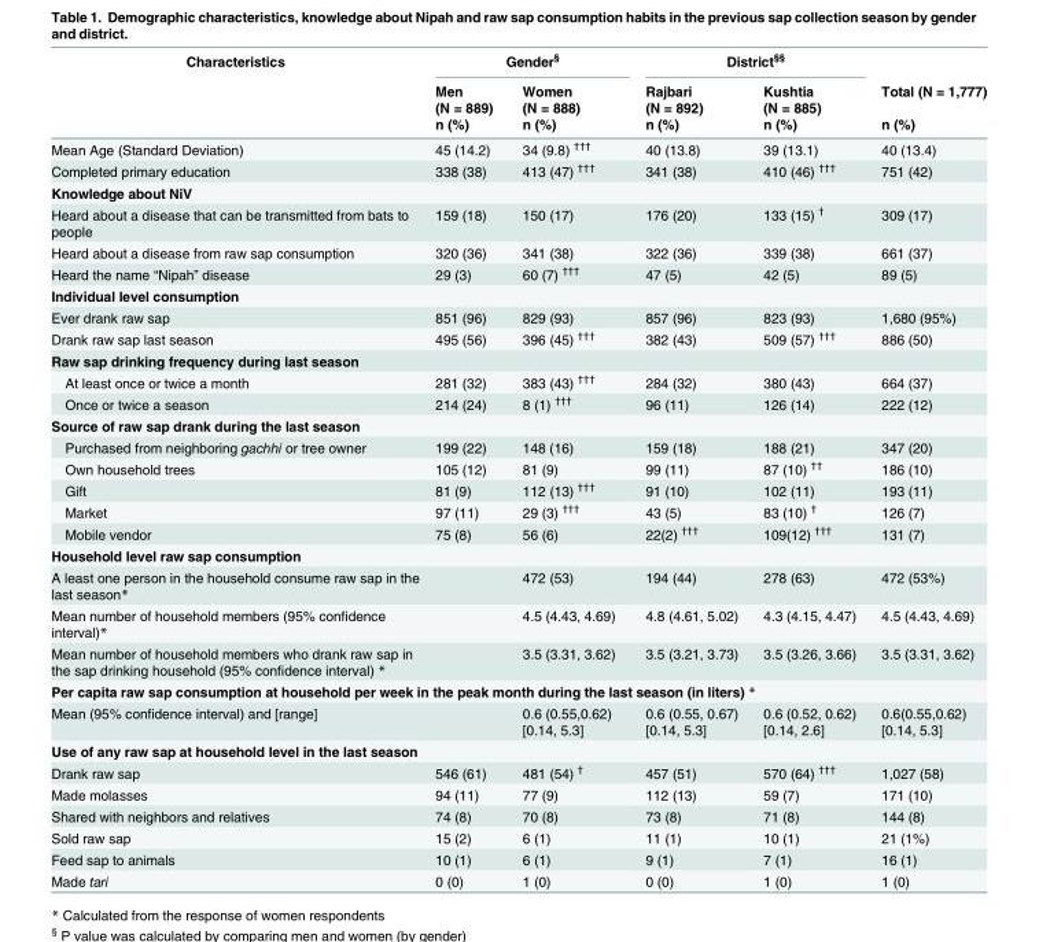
<table><thead><tr><td rowspan="3">Characteristics</td><td colspan="2">Gender<sup>§</sup></td><td colspan="2">District<sup>§§</sup></td><td rowspan="3">Total (N = 1,777) n (%)</td></tr><tr><td rowspan="2">Men (N = 889) n (%)</td><td rowspan="2">Women (N = 888) n (%)</td><td rowspan="2">Rajbari (N = 892) n (%)</td><td rowspan="2">Kushtia (N = 885) n (%)</td></tr><tr></tr></thead><tbody><tr><td>Mean Age (Standard Deviation)</td><td>45 (14.2)</td><td>34 (9.8) <sup>†††</sup></td><td>40 (13.8)</td><td>39 (13.1)</td><td>40 (13.4)</td></tr><tr><td>Completed primary education</td><td>338 (38)</td><td>413 (47) <sup>†††</sup></td><td>341 (38)</td><td>410 (46) <sup>†††</sup></td><td>751 (42)</td></tr><tr><td colspan="6">Knowledge about NiV</td></tr><tr><td>Heard about a disease that can be transmitted from bats to people</td><td>159 (18)</td><td>150 (17)</td><td>176 (20)</td><td>133 (15) <sup>†</sup></td><td>309 (17)</td></tr><tr><td>Heard about a disease from raw sap consumption</td><td>320 (36)</td><td>341 (38)</td><td>322 (36)</td><td>339 (38)</td><td>661 (37)</td></tr><tr><td>Heard the name “Nipah” disease</td><td>29 (3)</td><td>60 (7) <sup>†††</sup></td><td>47 (5)</td><td>42 (5)</td><td>89 (5)</td></tr><tr><td colspan="6">Individual level consumption</td></tr><tr><td>Ever drank raw sap</td><td>851 (96)</td><td>829 (93)</td><td>857 (96)</td><td>823 (93)</td><td>1,680 (95%)</td></tr><tr><td>Drank raw sap last season</td><td>495 (56)</td><td>396 (45) <sup>†††</sup></td><td>382 (43)</td><td>509 (57) <sup>†††</sup></td><td>886 (50)</td></tr><tr><td colspan="6">Raw sap drinking frequency during last season</td></tr><tr><td>At least once or twice a month</td><td>281 (32)</td><td>383 (43) <sup>†††</sup></td><td>284 (32)</td><td>380 (43)</td><td>664 (37)</td></tr><tr><td>Once or twice a season</td><td>214 (24)</td><td>8 (1) <sup>†††</sup></td><td>96 (11)</td><td>126 (14)</td><td>222 (12)</td></tr><tr><td colspan="6">Source of raw sap drank during the last season</td></tr><tr><td>Purchased from neighboring gachhi or tree owner</td><td>199 (22)</td><td>148 (16)</td><td>159 (18)</td><td>188 (21)</td><td>347 (20)</td></tr><tr><td>Own household trees</td><td>105 (12)</td><td>81 (9)</td><td>99 (11)</td><td>87 (10) <sup>††</sup></td><td>186 (10)</td></tr><tr><td>Gift</td><td>81 (9)</td><td>112 (13) <sup>†††</sup></td><td>91 (10)</td><td>102 (11)</td><td>193 (11)</td></tr><tr><td>Market</td><td>97 (11)</td><td>29 (3) <sup>†††</sup></td><td>43 (5)</td><td>83 (10) <sup>†</sup></td><td>126 (7)</td></tr><tr><td>Mobile vendor</td><td>75 (8)</td><td>56 (6)</td><td>22(2) <sup>†††</sup></td><td>109(12) <sup>†††</sup></td><td>131 (7)</td></tr><tr><td colspan="6">Household level raw sap consumption</td></tr><tr><td>A least one person in the household consume raw sap in the last season*</td><td></td><td>472 (53)</td><td>194 (44)</td><td>278 (63)</td><td>472 (53%)</td></tr><tr><td>Mean number of household members (95% confidence interval)*</td><td></td><td>4.5 (4.43, 4.69)</td><td>4.8 (4.61, 5.02)</td><td>4.3 (4.15, 4.47)</td><td>4.5 (4.43, 4.69)</td></tr><tr><td>Mean number of household members who drank raw sap in the sap drinking household (95% confidence interval) *</td><td></td><td>3.5 (3.31, 3.62)</td><td>3.5 (3.21, 3.73)</td><td>3.5 (3.26, 3.66)</td><td>3.5 (3.31, 3.62)</td></tr><tr><td colspan="6">Per capita raw sap consumption at household per week in the peak month during the last season (in liters) *</td></tr><tr><td>Mean (95% confidence interval) and [range]</td><td></td><td>0.6 (0.55,0.62) [0.14, 5.3]</td><td>0.6 (0.55, 0.67) [0.14, 5.3]</td><td>0.6 (0.52, 0.62) [0.14, 2.6]</td><td>0.6(0.55,0.62) [0.14, 5.3]</td></tr><tr><td colspan="6">Use of any raw sap at household level in the last season</td></tr><tr><td>Drank raw sap</td><td>546 (61)</td><td>481 (54) <sup>†</sup></td><td>457 (51)</td><td>570 (64) <sup>†††</sup></td><td>1,027 (58)</td></tr><tr><td>Made molasses</td><td>94 (11)</td><td>77 (9)</td><td>112 (13)</td><td>59 (7)</td><td>171 (10)</td></tr><tr><td>Shared with neighbors and relatives</td><td>74 (8)</td><td>70 (8)</td><td>73 (8)</td><td>71 (8)</td><td>144 (8)</td></tr><tr><td>Sold raw sap</td><td>15 (2)</td><td>6 (1)</td><td>11 (1)</td><td>10 (1)</td><td>21 (1%)</td></tr><tr><td>Feed sap to animals</td><td>10 (1)</td><td>6 (1)</td><td>9 (1)</td><td>7 (1)</td><td>16 (1)</td></tr><tr><td>Made tari</td><td>0 (0)</td><td>1 (0)</td><td>0 (0)</td><td>1 (0)</td><td>1 (0)</td></tr></tbody></table>